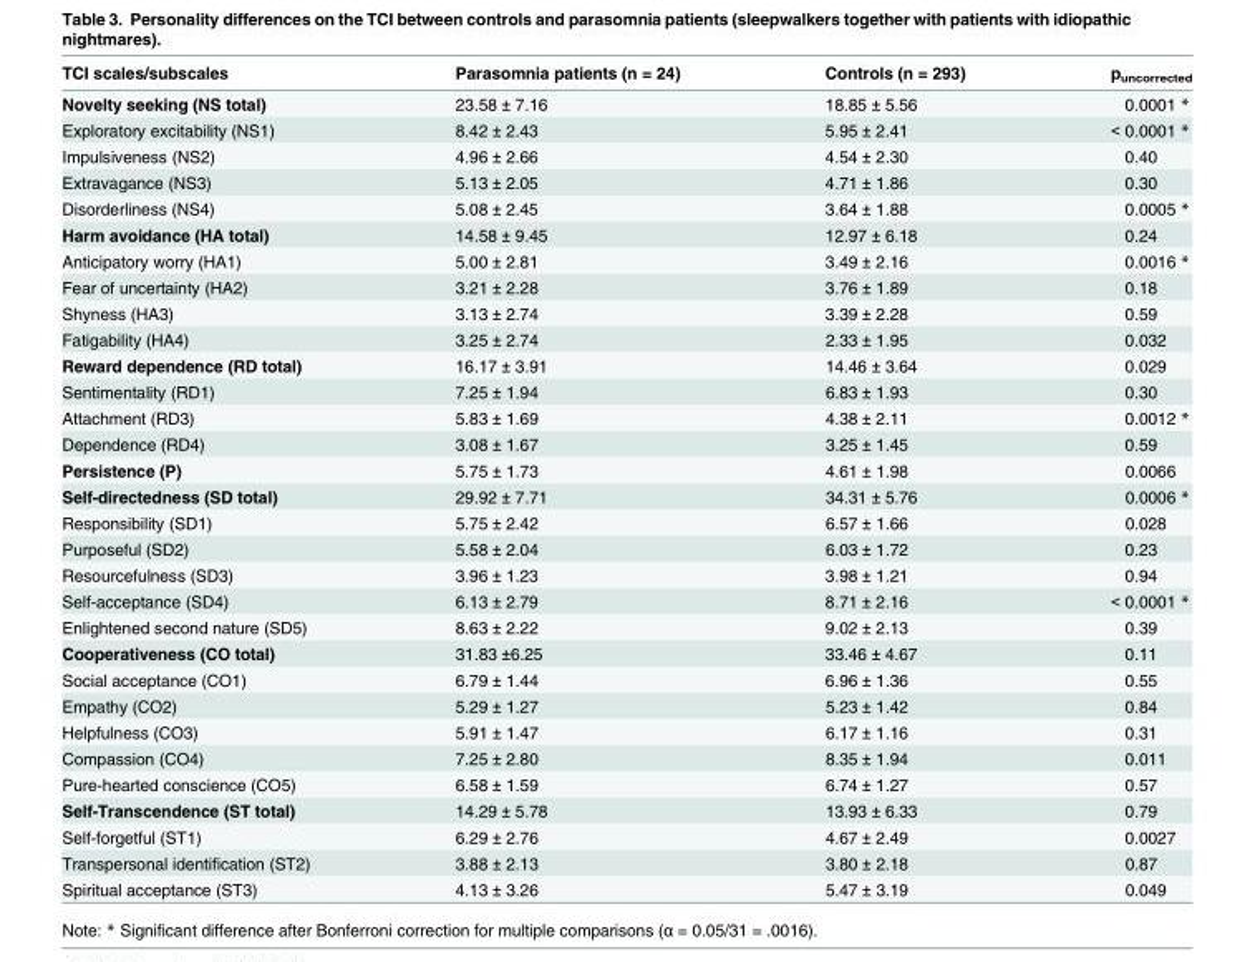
<table><thead><tr><td>TCI scales/subscales</td><td>Parasomnia patients (n = 24)</td><td>Controls (n = 293)</td><td>p<sub>uncorrected</sub></td></tr></thead><tbody><tr><td>Novelty seeking (NS total)</td><td>23.58 ± 7.16</td><td>18.85 ± 5.56</td><td>0.0001 *</td></tr><tr><td>Exploratory excitability (NS1)</td><td>8.42 ± 2.43</td><td>5.95 ± 2.41</td><td>&lt; 0.0001 *</td></tr><tr><td>Impulsiveness (NS2)</td><td>4.96 ± 2.66</td><td>4.54 ± 2.30</td><td>0.40</td></tr><tr><td>Extravagance (NS3)</td><td>5.13 ± 2.05</td><td>4.71 ± 1.86</td><td>0.30</td></tr><tr><td>Disorderliness (NS4)</td><td>5.08 ± 2.45</td><td>3.64 ± 1.88</td><td>0.0005 *</td></tr><tr><td>Harm avoidance (HA total)</td><td>14.58 ± 9.45</td><td>12.97 ± 6.18</td><td>0.24</td></tr><tr><td>Anticipatory worry (HA1)</td><td>5.00 ± 2.81</td><td>3.49 ± 2.16</td><td>0.0016 *</td></tr><tr><td>Fear of uncertainty (HA2)</td><td>3.21 ± 2.28</td><td>3.76 ± 1.89</td><td>0.18</td></tr><tr><td>Shyness (HA3)</td><td>3.13 ± 2.74</td><td>3.39 ± 2.28</td><td>0.59</td></tr><tr><td>Fatigability (HA4)</td><td>3.25 ± 2.74</td><td>2.33 ± 1.95</td><td>0.032</td></tr><tr><td>Reward dependence (RD total)</td><td>16.17 ± 3.91</td><td>14.46 ± 3.64</td><td>0.029</td></tr><tr><td>Sentimentality (RD1)</td><td>7.25 ± 1.94</td><td>6.83 ± 1.93</td><td>0.30</td></tr><tr><td>Attachment (RD3)</td><td>5.83 ± 1.69</td><td>4.38 ± 2.11</td><td>0.0012 *</td></tr><tr><td>Dependence (RD4)</td><td>3.08 ± 1.67</td><td>3.25 ± 1.45</td><td>0.59</td></tr><tr><td>Persistence (P)</td><td>5.75 ± 1.73</td><td>4.61 ± 1.98</td><td>0.0066</td></tr><tr><td>Self-directedness (SD total)</td><td>29.92 ± 7.71</td><td>34.31 ± 5.76</td><td>0.0006 *</td></tr><tr><td>Responsibility (SD1)</td><td>5.75 ± 2.42</td><td>6.57 ± 1.66</td><td>0.028</td></tr><tr><td>Purposeful (SD2)</td><td>5.58 ± 2.04</td><td>6.03 ± 1.72</td><td>0.23</td></tr><tr><td>Resourcefulness (SD3)</td><td>3.96 ± 1.23</td><td>3.98 ± 1.21</td><td>0.94</td></tr><tr><td>Self-acceptance (SD4)</td><td>6.13 ± 2.79</td><td>8.71 ± 2.16</td><td>&lt; 0.0001 *</td></tr><tr><td>Enlightened second nature (SD5)</td><td>8.63 ± 2.22</td><td>9.02 ± 2.13</td><td>0.39</td></tr><tr><td>Cooperativeness (CO total)</td><td>31.83 ±6.25</td><td>33.46 ± 4.67</td><td>0.11</td></tr><tr><td>Social acceptance (CO1)</td><td>6.79 ± 1.44</td><td>6.96 ± 1.36</td><td>0.55</td></tr><tr><td>Empathy (CO2)</td><td>5.29 ± 1.27</td><td>5.23 ± 1.42</td><td>0.84</td></tr><tr><td>Helpfulness (CO3)</td><td>5.91 ± 1.47</td><td>6.17 ± 1.16</td><td>0.31</td></tr><tr><td>Compassion (CO4)</td><td>7.25 ± 2.80</td><td>8.35 ± 1.94</td><td>0.011</td></tr><tr><td>Pure-hearted conscience (CO5)</td><td>6.58 ± 1.59</td><td>6.74 ± 1.27</td><td>0.57</td></tr><tr><td>Self-Transcendence (ST total)</td><td>14.29 ± 5.78</td><td>13.93 ± 6.33</td><td>0.79</td></tr><tr><td>Self-forgetful (ST1)</td><td>6.29 ± 2.76</td><td>4.67 ± 2.49</td><td>0.0027</td></tr><tr><td>Transpersonal identification (ST2)</td><td>3.88 ± 2.13</td><td>3.80 ± 2.18</td><td>0.87</td></tr><tr><td>Spiritual acceptance (ST3)</td><td>4.13 ± 3.26</td><td>5.47 ± 3.19</td><td>0.049</td></tr></tbody></table>